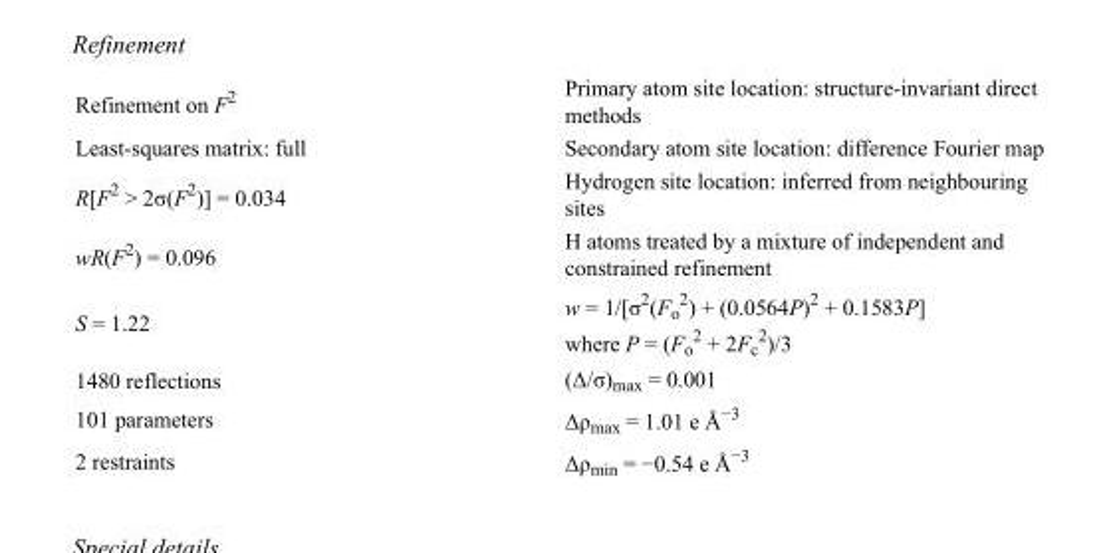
<table><tbody><tr><td>Refinement on F<sup>2</sup></td><td>Primary atom site location: structure-invariant direct methods</td></tr><tr><td>Least-squares matrix: full</td><td>Secondary atom site location: difference Fourier map</td></tr><tr><td>R[F<sup>2</sup> &gt; 2σ(F<sup>2</sup>)] = 0.034</td><td>Hydrogen site location: inferred from neighbouring sites</td></tr><tr><td>wR(F<sup>2</sup>) = 0.096</td><td>H atoms treated by a mixture of independent and constrained refinement</td></tr><tr><td>S = 1.22</td><td>w = 1/[σ<sup>2</sup>(F<sub>o</sub> <sup>2</sup>) + (0.0564P)<sup>2</sup> + 0.1583P] where P = (F<sub>o</sub> <sup>2</sup> + 2F<sub>c</sub> <sup>2</sup>)/3</td></tr><tr><td>1480 reflections</td><td>(Δ/σ)<sub>max</sub> = 0.001</td></tr><tr><td>101 parameters</td><td>Δρ<sub>max</sub> = 1.01 e Å<sup>−3</sup></td></tr><tr><td>2 restraints</td><td>Δρ<sub>min</sub> = −0.54 e Å<sup>−3</sup></td></tr></tbody></table>